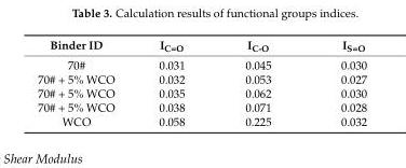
<table><thead><tr><td>Binder ID</td><td>I<sub>C=O</sub></td><td>I<sub>C-O</sub></td><td>I<sub>S=O</sub></td></tr></thead><tbody><tr><td>70#</td><td>0.031</td><td>0.045</td><td>0.030</td></tr><tr><td>70# + 5% WCO</td><td>0.032</td><td>0.053</td><td>0.027</td></tr><tr><td>70# + 5% WCO</td><td>0.035</td><td>0.062</td><td>0.030</td></tr><tr><td>70# + 5% WCO</td><td>0.038</td><td>0.071</td><td>0.028</td></tr><tr><td>WCO</td><td>0.058</td><td>0.225</td><td>0.032</td></tr></tbody></table>